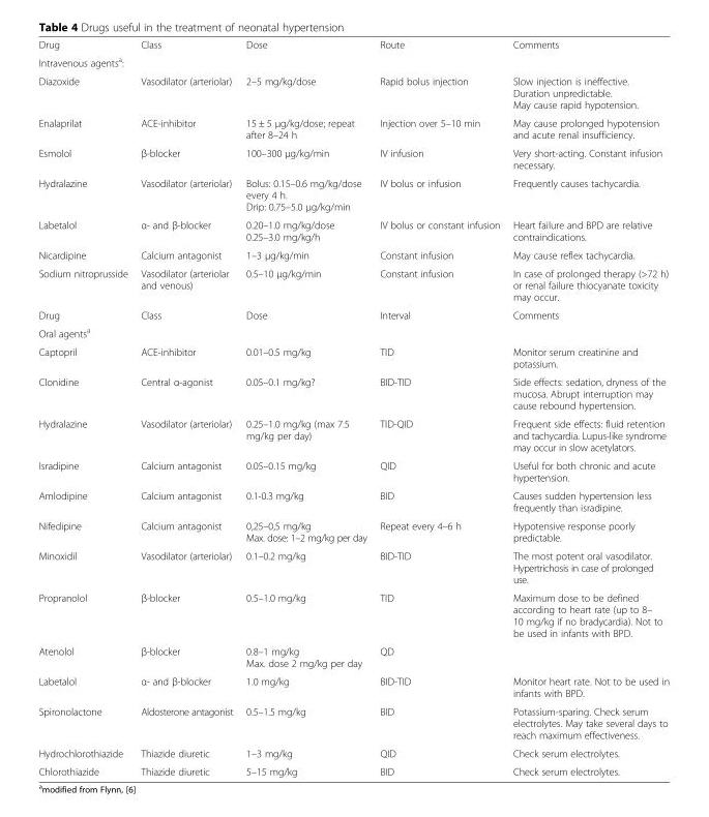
<table><tbody><tr><td>Drug</td><td>Class</td><td>Dose</td><td>Route</td><td>Comments</td></tr><tr><td colspan="5">Intravenous agents<sup>a</sup>:</td></tr><tr><td>Diazoxide</td><td>Vasodilator (arteriolar)</td><td>2–5 mg/kg/dose</td><td>Rapid bolus injection</td><td>Slow injection is ineffective. Duration unpredictable. May cause rapid hypotension.</td></tr><tr><td>Enalaprilat</td><td>ACE-inhibitor</td><td>15 ± 5 μg/kg/dose; repeat after 8–24 h</td><td>Injection over 5–10 min</td><td>May cause prolonged hypotension and acute renal insufficiency.</td></tr><tr><td>Esmolol</td><td>β-blocker</td><td>100–300 μg/kg/min</td><td>IV infusion</td><td>Very short-acting. Constant infusion necessary.</td></tr><tr><td>Hydralazine</td><td>Vasodilator (arteriolar)</td><td>Bolus: 0.15–0.6 mg/kg/dose every 4 h. Drip: 0.75–5.0 μg/kg/min</td><td>IV bolus or infusion</td><td>Frequently causes tachycardia.</td></tr><tr><td>Labetalol</td><td>α- and β-blocker</td><td>0.20–1.0 mg/kg/dose 0.25–3.0 mg/kg/h</td><td>IV bolus or constant infusion</td><td>Heart failure and BPD are relative contraindications.</td></tr><tr><td>Nicardipine</td><td>Calcium antagonist</td><td>1–3 μg/kg/min</td><td>Constant infusion</td><td>May cause reflex tachycardia.</td></tr><tr><td>Sodium nitroprusside</td><td>Vasodilator (arteriolar and venous)</td><td>0.5–10 μg/kg/min</td><td>Constant infusion</td><td>In case of prolonged therapy (&gt;72 h) or renal failure thiocyanate toxicity may occur.</td></tr><tr><td>Drug</td><td>Class</td><td>Dose</td><td>Interval</td><td>Comments</td></tr><tr><td colspan="5">Oral agents<sup>a</sup></td></tr><tr><td>Captopril</td><td>ACE-inhibitor</td><td>0.01–0.5 mg/kg</td><td>TID</td><td>Monitor serum creatinine and potassium.</td></tr><tr><td>Clonidine</td><td>Central α-agonist</td><td>0.05–0.1 mg/kg?</td><td>BID-TID</td><td>Side effects: sedation, dryness of the mucosa. Abrupt interruption may cause rebound hypertension.</td></tr><tr><td>Hydralazine</td><td>Vasodilator (arteriolar)</td><td>0.25–1.0 mg/kg (max 7.5 mg/kg per day)</td><td>TID-QID</td><td>Frequent side effects: fluid retention and tachycardia. Lupus-like syndrome may occur in slow acetylators.</td></tr><tr><td>Isradipine</td><td>Calcium antagonist</td><td>0.05–0.15 mg/kg</td><td>QID</td><td>Useful for both chronic and acute hypertension.</td></tr><tr><td>Amlodipine</td><td>Calcium antagonist</td><td>0.1-0.3 mg/kg</td><td>BID</td><td>Causes sudden hypertension less frequently than isradipine.</td></tr><tr><td>Nifedipine</td><td>Calcium antagonist</td><td>0,25–0,5 mg/kg Max. dose: 1–2 mg/kg per day</td><td>Repeat every 4–6 h</td><td>Hypotensive response poorly predictable.</td></tr><tr><td>Minoxidil</td><td>Vasodilator (arteriolar)</td><td>0.1–0.2 mg/kg</td><td>BID-TID</td><td>The most potent oral vasodilator. Hypertrichosis in case of prolonged use.</td></tr><tr><td>Propranolol</td><td>β-blocker</td><td>0.5–1.0 mg/kg</td><td>TID</td><td>Maximum dose to be defined according to heart rate (up to 8– 10 mg/kg if no bradycardia). Not to be used in infants with BPD.</td></tr><tr><td>Atenolol</td><td>β-blocker</td><td>0.8–1 mg/kg Max. dose 2 mg/kg per day</td><td>QD</td><td></td></tr><tr><td>Labetalol</td><td>α- and β-blocker</td><td>1.0 mg/kg</td><td>BID-TID</td><td>Monitor heart rate. Not to be used in infants with BPD.</td></tr><tr><td>Spironolactone</td><td>Aldosterone antagonist</td><td>0.5–1.5 mg/kg</td><td>BID</td><td>Potassium-sparing. Check serum electrolytes. May take several days to reach maximum effectiveness.</td></tr><tr><td>Hydrochlorothiazide</td><td>Thiazide diuretic</td><td>1–3 mg/kg</td><td>QID</td><td>Check serum electrolytes.</td></tr><tr><td>Chlorothiazide</td><td>Thiazide diuretic</td><td>5–15 mg/kg</td><td>BID</td><td>Check serum electrolytes.</td></tr></tbody></table>